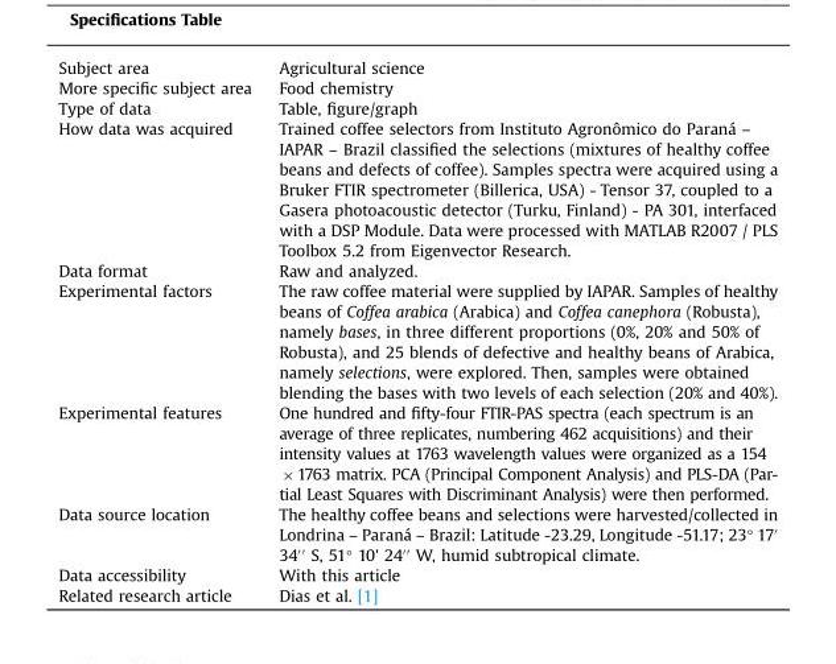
<table><tbody><tr><td>Subject area</td><td>Agricultural science</td></tr><tr><td>More specific subject area</td><td>Food chemistry</td></tr><tr><td>Type of data</td><td>Table, figure/graph</td></tr><tr><td>How data was acquired</td><td>Trained coffee selectors from Instituto Agronômico do Paraná – IAPAR – Brazil classified the selections (mixtures of healthy coffee beans and defects of coffee). Samples spectra were acquired using a Bruker FTIR spectrometer (Billerica, USA) - Tensor 37, coupled to a Gasera photoacoustic detector (Turku, Finland) - PA 301, interfaced with a DSP Module. Data were processed with MATLAB R2007 / PLS Toolbox 5.2 from Eigenvector Research.</td></tr><tr><td>Data format</td><td>Raw and analyzed.</td></tr><tr><td>Experimental factors</td><td>The raw coffee material were supplied by IAPAR. Samples of healthy beans of Coffea arabica (Arabica) and Coffea canephora (Robusta), namely bases, in three different proportions (0%, 20% and 50% of Robusta), and 25 blends of defective and healthy beans of Arabica, namely selections, were explored. Then, samples were obtained blending the bases with two levels of each selection (20% and 40%).</td></tr><tr><td>Experimental features</td><td>One hundred and fifty-four FTIR-PAS spectra (each spectrum is an average of three replicates, numbering 462 acquisitions) and their intensity values at 1763 wavelength values were organized as a 154 � 1763 matrix. PCA (Principal Component Analysis) and PLS-DA (Par- tial Least Squares with Discriminant Analysis) were then performed.</td></tr><tr><td>Data source location</td><td>The healthy coffee beans and selections were harvested/collected in Londrina – Paraná – Brazil: Latitude -23.29, Longitude -51.17; 23° 17′ 34′′ S, 51° 10&#x27; 24′′ W, humid subtropical climate.</td></tr><tr><td>Data accessibility</td><td>With this article</td></tr><tr><td>Related research article</td><td>Dias et al. [1]</td></tr></tbody></table>